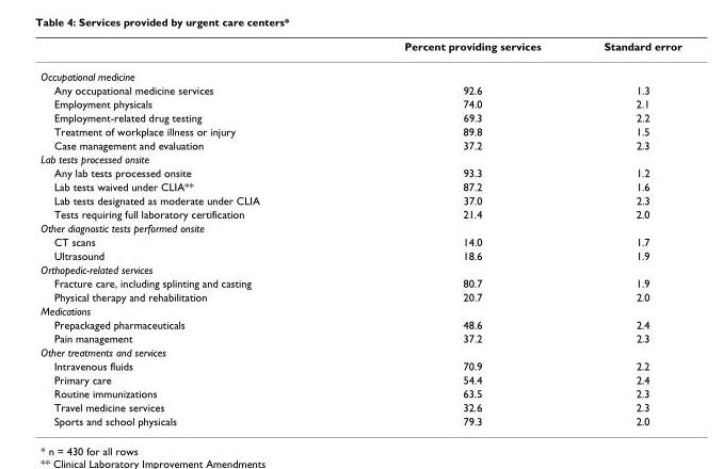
<table><thead><tr><td></td><td>Percent providing services</td><td>Standard error</td></tr></thead><tbody><tr><td colspan="3">Occupational medicine</td></tr><tr><td>Any occupational medicine services</td><td>92.6</td><td>1.3</td></tr><tr><td>Employment physicals</td><td>74.0</td><td>2.1</td></tr><tr><td>Employment-related drug testing</td><td>69.3</td><td>2.2</td></tr><tr><td>Treatment of workplace illness or injury</td><td>89.8</td><td>1.5</td></tr><tr><td>Case management and evaluation</td><td>37.2</td><td>2.3</td></tr><tr><td colspan="3">Lab tests processed onsite</td></tr><tr><td>Any lab tests processed onsite</td><td>93.3</td><td>1.2</td></tr><tr><td>Lab tests waived under CLIA**</td><td>87.2</td><td>1.6</td></tr><tr><td>Lab tests designated as moderate under CLIA</td><td>37.0</td><td>2.3</td></tr><tr><td>Tests requiring full laboratory certification</td><td>21.4</td><td>2.0</td></tr><tr><td colspan="3">Other diagnostic tests performed onsite</td></tr><tr><td>CT scans</td><td>14.0</td><td>1.7</td></tr><tr><td>Ultrasound</td><td>18.6</td><td>1.9</td></tr><tr><td colspan="3">Orthopedic-related services</td></tr><tr><td>Fracture care, including splinting and casting</td><td>80.7</td><td>1.9</td></tr><tr><td>Physical therapy and rehabilitation</td><td>20.7</td><td>2.0</td></tr><tr><td colspan="3">Medications</td></tr><tr><td>Prepackaged pharmaceuticals</td><td>48.6</td><td>2.4</td></tr><tr><td>Pain management</td><td>37.2</td><td>2.3</td></tr><tr><td colspan="3">Other treatments and services</td></tr><tr><td>Intravenous fluids</td><td>70.9</td><td>2.2</td></tr><tr><td>Primary care</td><td>54.4</td><td>2.4</td></tr><tr><td>Routine immunizations</td><td>63.5</td><td>2.3</td></tr><tr><td>Travel medicine services</td><td>32.6</td><td>2.3</td></tr><tr><td>Sports and school physicals</td><td>79.3</td><td>2.0</td></tr></tbody></table>